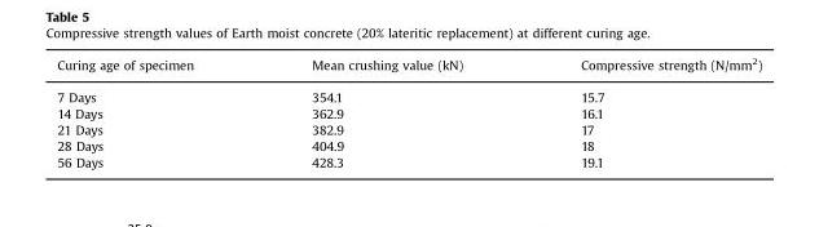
<table><thead><tr><td>Curing age of specimen</td><td>Mean crushing value (kN)</td><td>Compressive strength (N/mm<sup>2</sup>)</td></tr></thead><tbody><tr><td>7 Days</td><td>354.1</td><td>15.7</td></tr><tr><td>14 Days</td><td>362.9</td><td>16.1</td></tr><tr><td>21 Days</td><td>382.9</td><td>17</td></tr><tr><td>28 Days</td><td>404.9</td><td>18</td></tr><tr><td>56 Days</td><td>428.3</td><td>19.1</td></tr></tbody></table>